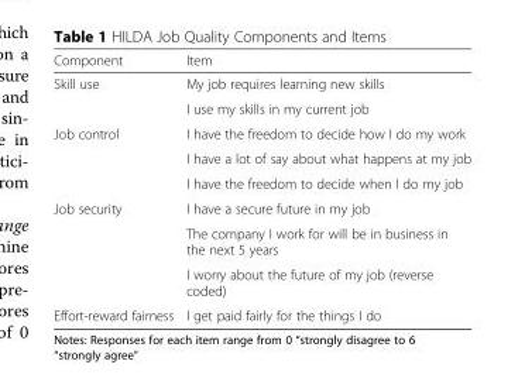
<table><thead><tr><td>Component</td><td>Item</td></tr></thead><tbody><tr><td rowspan="2">Skill use</td><td>My job requires learning new skills</td></tr><tr><td>I use my skills in my current job</td></tr><tr><td rowspan="3">Job control</td><td>I have the freedom to decide how I do my work</td></tr><tr><td>I have a lot of say about what happens at my job</td></tr><tr><td>I have the freedom to decide when I do my job</td></tr><tr><td rowspan="3">Job security</td><td>I have a secure future in my job</td></tr><tr><td>The company I work for will be in business in the next 5 years</td></tr><tr><td>I worry about the future of my job (reverse coded)</td></tr><tr><td>Effort-reward fairness</td><td>I get paid fairly for the things I do</td></tr></tbody></table>